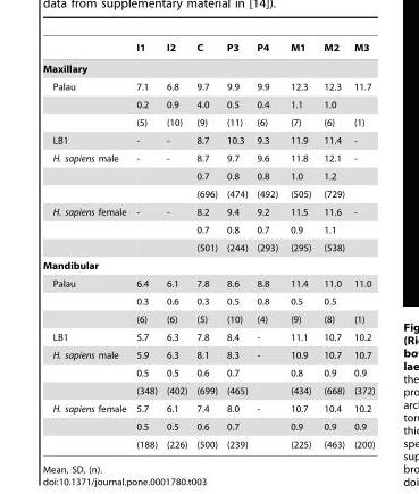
<table><thead><tr><td></td><td>I1</td><td>I2</td><td>C</td><td>P3</td><td>P4</td><td>M1</td><td>M2</td><td>M3</td></tr></thead><tbody><tr><td colspan="9">Maxillary</td></tr><tr><td rowspan="3">Palau</td><td>7.1</td><td>6.8</td><td>9.7</td><td>9.9</td><td>9.9</td><td>12.3</td><td>12.3</td><td>11.7</td></tr><tr><td>0.2</td><td>0.9</td><td>4.0</td><td>0.5</td><td>0.4</td><td>1.1</td><td>1.0</td><td></td></tr><tr><td>(5)</td><td>(10)</td><td>(9)</td><td>(11)</td><td>(6)</td><td>(7)</td><td>(6)</td><td>(1)</td></tr><tr><td>LB1</td><td>-</td><td>-</td><td>8.7</td><td>10.3</td><td>9.3</td><td>11.9</td><td>11.4</td><td>-</td></tr><tr><td rowspan="3">H. sapiens male</td><td>-</td><td>-</td><td>8.7</td><td>9.7</td><td>9.6</td><td>11.8</td><td>12.1</td><td>-</td></tr><tr><td></td><td></td><td>0.7</td><td>0.8</td><td>0.8</td><td>1.0</td><td>1.2</td><td></td></tr><tr><td></td><td></td><td>(696)</td><td>(474)</td><td>(492)</td><td>(505)</td><td>(729)</td><td></td></tr><tr><td rowspan="3">H. sapiens female</td><td>-</td><td>-</td><td>8.2</td><td>9.4</td><td>9.2</td><td>11.5</td><td>11.6</td><td>-</td></tr><tr><td></td><td></td><td>0.7</td><td>0.8</td><td>0.7</td><td>0.9</td><td>1.1</td><td></td></tr><tr><td></td><td></td><td>(501)</td><td>(244)</td><td>(293)</td><td>(295)</td><td>(538)</td><td></td></tr><tr><td colspan="9">Mandibular</td></tr><tr><td rowspan="3">Palau</td><td>6.4</td><td>6.1</td><td>7.8</td><td>8.6</td><td>8.8</td><td>11.4</td><td>11.0</td><td>11.0</td></tr><tr><td>0.3</td><td>0.6</td><td>0.3</td><td>0.5</td><td>0.8</td><td>0.5</td><td>0.5</td><td></td></tr><tr><td>(6)</td><td>(6)</td><td>(5)</td><td>(10)</td><td>(4)</td><td>(9)</td><td>(8)</td><td>(1)</td></tr><tr><td>LB1</td><td>5.7</td><td>6.3</td><td>7.8</td><td>8.4</td><td>-</td><td>11.1</td><td>10.7</td><td>10.2</td></tr><tr><td rowspan="3">H. sapiens male</td><td>5.9</td><td>6.3</td><td>8.1</td><td>8.3</td><td>-</td><td>10.9</td><td>10.7</td><td>10.7</td></tr><tr><td>0.5</td><td>0.5</td><td>0.6</td><td>0.7</td><td></td><td>0.8</td><td>0.9</td><td>0.9</td></tr><tr><td>(348)</td><td>(402)</td><td>(699)</td><td>(465)</td><td></td><td>(434)</td><td>(668)</td><td>(372)</td></tr><tr><td rowspan="3">H. sapiens female</td><td>5.7</td><td>6.1</td><td>7.4</td><td>8.0</td><td>-</td><td>10.7</td><td>10.4</td><td>10.2</td></tr><tr><td>0.5</td><td>0.5</td><td>0.6</td><td>0.7</td><td></td><td>0.9</td><td>0.9</td><td>0.9</td></tr><tr><td>(188)</td><td>(226)</td><td>(500)</td><td>(239)</td><td></td><td>(225)</td><td>(463)</td><td>(200)</td></tr></tbody></table>